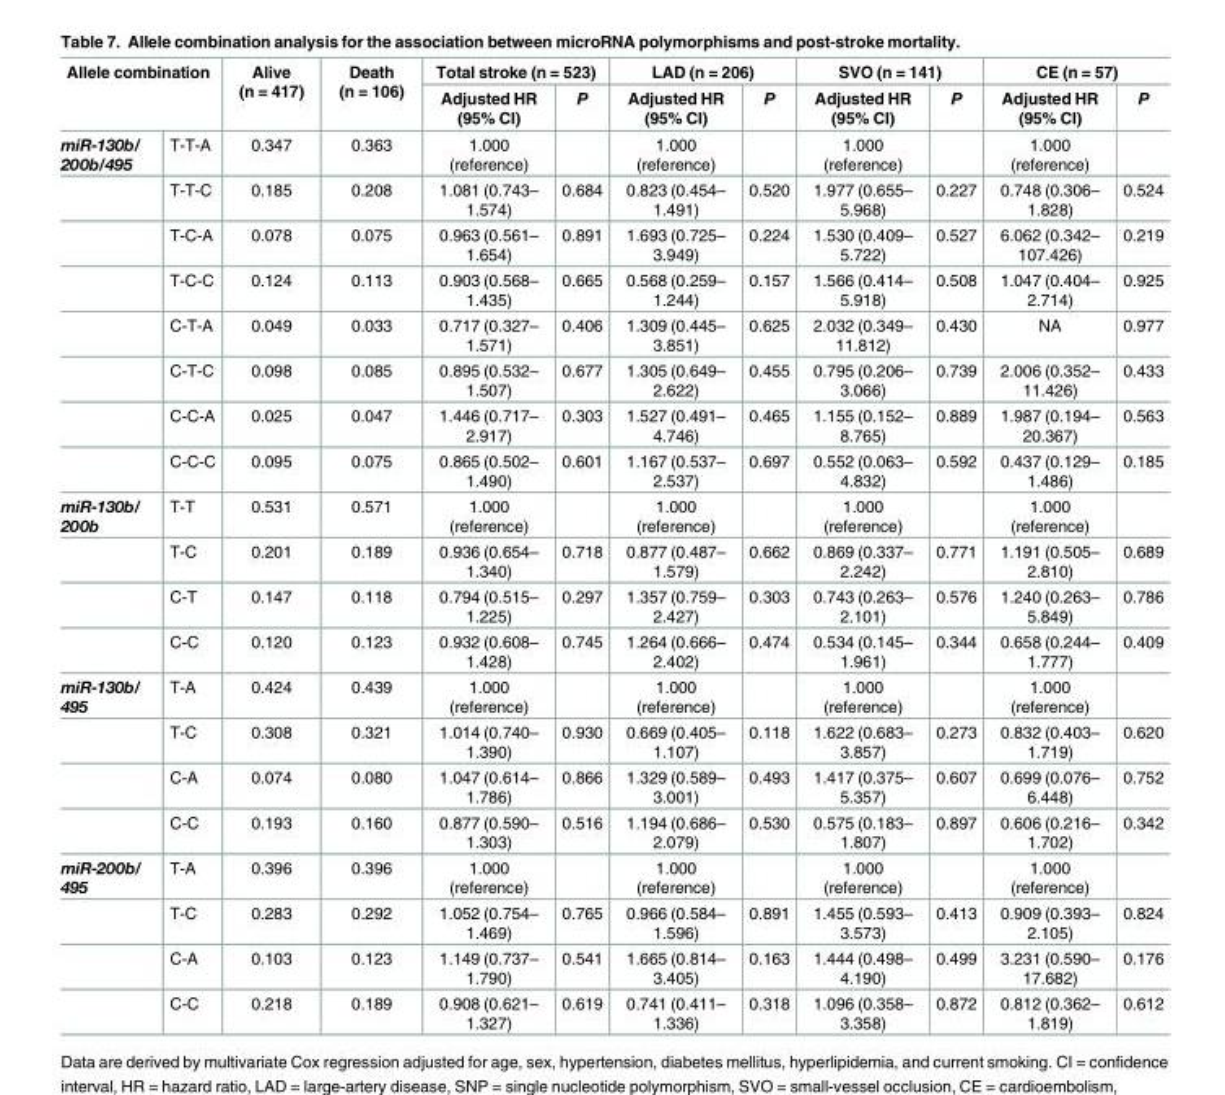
<table><thead><tr><td rowspan="2" colspan="2">Allele combination</td><td rowspan="3">Alive (n = 417) 0.347</td><td rowspan="3">Death (n = 106) 0.363</td><td colspan="2">Total stroke (n = 523)</td><td colspan="2">LAD (n = 206)</td><td colspan="2">SVO (n = 141)</td><td colspan="2">CE (n = 57)</td></tr><tr><td rowspan="2">Adjusted HR (95% CI) 1.000 (reference)</td><td rowspan="2">P</td><td rowspan="2">Adjusted HR (95% CI) 1.000 (reference)</td><td rowspan="2">P</td><td rowspan="2">Adjusted HR (95% CI) 1.000 (reference)</td><td rowspan="2">P</td><td rowspan="2">Adjusted HR (95% CI) 1.000 (reference)</td><td rowspan="2">P</td></tr><tr><td>miR-130b/ 200b/495</td><td>T-T-A</td></tr></thead><tbody><tr><td></td><td>T-T-C</td><td>0.185</td><td>0.208</td><td>1.081 (0.743– 1.574)</td><td>0.684</td><td>0.823 (0.454– 1.491)</td><td>0.520</td><td>1.977 (0.655– 5.968)</td><td>0.227</td><td>0.748 (0.306– 1.828)</td><td>0.524</td></tr><tr><td></td><td>T-C-A</td><td>0.078</td><td>0.075</td><td>0.963 (0.561– 1.654)</td><td>0.891</td><td>1.693 (0.725– 3.949)</td><td>0.224</td><td>1.530 (0.409– 5.722)</td><td>0.527</td><td>6.062 (0.342– 107.426)</td><td>0.219</td></tr><tr><td></td><td>T-C-C</td><td>0.124</td><td>0.113</td><td>0.903 (0.568– 1.435)</td><td>0.665</td><td>0.568 (0.259– 1.244)</td><td>0.157</td><td>1.566 (0.414– 5.918)</td><td>0.508</td><td>1.047 (0.404– 2.714)</td><td>0.925</td></tr><tr><td></td><td>C-T-A</td><td>0.049</td><td>0.033</td><td>0.717 (0.327– 1.571)</td><td>0.406</td><td>1.309 (0.445– 3.851)</td><td>0.625</td><td>2.032 (0.349– 11.812)</td><td>0.430</td><td>NA</td><td>0.977</td></tr><tr><td></td><td>C-T-C</td><td>0.098</td><td>0.085</td><td>0.895 (0.532– 1.507)</td><td>0.677</td><td>1.305 (0.649– 2.622)</td><td>0.455</td><td>0.795 (0.206– 3.066)</td><td>0.739</td><td>2.006 (0.352– 11.426)</td><td>0.433</td></tr><tr><td></td><td>C-C-A</td><td>0.025</td><td>0.047</td><td>1.446 (0.717– 2.917)</td><td>0.303</td><td>1.527 (0.491– 4.746)</td><td>0.465</td><td>1.155 (0.152– 8.765)</td><td>0.889</td><td>1.987 (0.194– 20.367)</td><td>0.563</td></tr><tr><td></td><td>C-C-C</td><td>0.095</td><td>0.075</td><td>0.865 (0.502– 1.490)</td><td>0.601</td><td>1.167 (0.537– 2.537)</td><td>0.697</td><td>0.552 (0.063– 4.832)</td><td>0.592</td><td>0.437 (0.129– 1.486)</td><td>0.185</td></tr><tr><td rowspan="4">miR-130b/ 200b</td><td>T-T</td><td>0.531</td><td>0.571</td><td>1.000 (reference)</td><td></td><td>1.000 (reference)</td><td></td><td>1.000 (reference)</td><td></td><td>1.000 (reference)</td><td></td></tr><tr><td>T-C</td><td>0.201</td><td>0.189</td><td>0.936 (0.654– 1.340)</td><td>0.718</td><td>0.877 (0.487– 1.579)</td><td>0.662</td><td>0.869 (0.337– 2.242)</td><td>0.771</td><td>1.191 (0.505– 2.810)</td><td>0.689</td></tr><tr><td>C-T</td><td>0.147</td><td>0.118</td><td>0.794 (0.515– 1.225)</td><td>0.297</td><td>1.357 (0.759– 2.427)</td><td>0.303</td><td>0.743 (0.263– 2.101)</td><td>0.576</td><td>1.240 (0.263– 5.849)</td><td>0.786</td></tr><tr><td>C-C</td><td>0.120</td><td>0.123</td><td>0.932 (0.608– 1.428)</td><td>0.745</td><td>1.264 (0.666– 2.402)</td><td>0.474</td><td>0.534 (0.145– 1.961)</td><td>0.344</td><td>0.658 (0.244– 1.777)</td><td>0.409</td></tr><tr><td rowspan="4">miR-130b/ 495</td><td>T-A</td><td>0.424</td><td>0.439</td><td>1.000 (reference)</td><td></td><td>1.000 (reference)</td><td></td><td>1.000 (reference)</td><td></td><td>1.000 (reference)</td><td></td></tr><tr><td>T-C</td><td>0.308</td><td>0.321</td><td>1.014 (0.740– 1.390)</td><td>0.930</td><td>0.669 (0.405– 1.107)</td><td>0.118</td><td>1.622 (0.683– 3.857)</td><td>0.273</td><td>0.832 (0.403– 1.719)</td><td>0.620</td></tr><tr><td>C-A</td><td>0.074</td><td>0.080</td><td>1.047 (0.614– 1.786)</td><td>0.866</td><td>1.329 (0.589– 3.001)</td><td>0.493</td><td>1.417 (0.375– 5.357)</td><td>0.607</td><td>0.699 (0.076– 6.448)</td><td>0.752</td></tr><tr><td>C-C</td><td>0.193</td><td>0.160</td><td>0.877 (0.590– 1.303)</td><td>0.516</td><td>1.194 (0.686– 2.079)</td><td>0.530</td><td>0.575 (0.183– 1.807)</td><td>0.897</td><td>0.606 (0.216– 1.702)</td><td>0.342</td></tr><tr><td rowspan="4">miR-200b/ 495</td><td>T-A</td><td>0.396</td><td>0.396</td><td>1.000 (reference)</td><td></td><td>1.000 (reference)</td><td></td><td>1.000 (reference)</td><td></td><td>1.000 (reference)</td><td></td></tr><tr><td>T-C</td><td>0.283</td><td>0.292</td><td>1.052 (0.754– 1.469)</td><td>0.765</td><td>0.966 (0.584– 1.596)</td><td>0.891</td><td>1.455 (0.593– 3.573)</td><td>0.413</td><td>0.909 (0.393– 2.105)</td><td>0.824</td></tr><tr><td>C-A</td><td>0.103</td><td>0.123</td><td>1.149 (0.737– 1.790)</td><td>0.541</td><td>1.665 (0.814– 3.405)</td><td>0.163</td><td>1.444 (0.498– 4.190)</td><td>0.499</td><td>3.231 (0.590– 17.682)</td><td>0.176</td></tr><tr><td>C-C</td><td>0.218</td><td>0.189</td><td>0.908 (0.621– 1.327)</td><td>0.619</td><td>0.741 (0.411– 1.336)</td><td>0.318</td><td>1.096 (0.358– 3.358)</td><td>0.872</td><td>0.812 (0.362– 1.819)</td><td>0.612</td></tr></tbody></table>